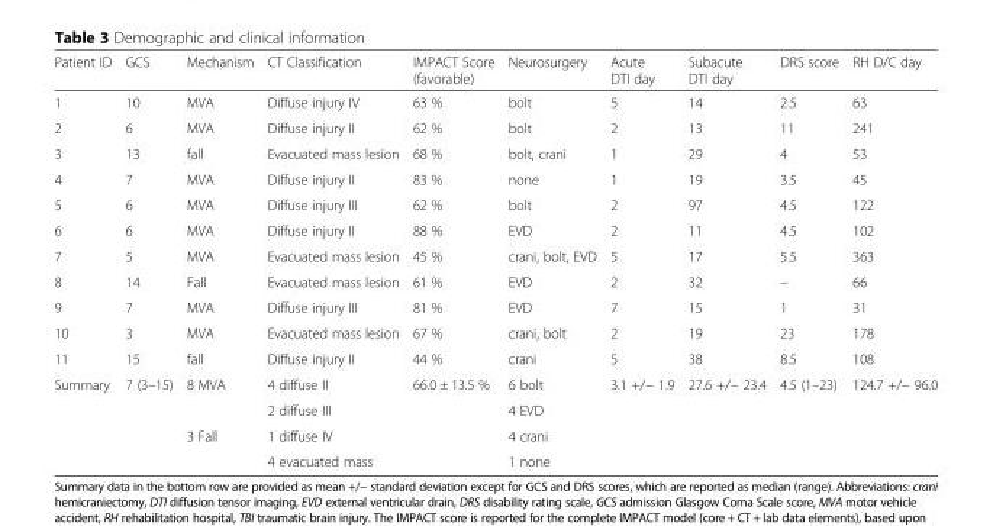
<table><thead><tr><td>Patient ID</td><td>GCS</td><td>Mechanism</td><td>CT Classification</td><td>IMPACT Score (favorable)</td><td>Neurosurgery</td><td>Acute DTI day</td><td>Subacute DTI day</td><td>DRS score</td><td>RH D/C day</td></tr></thead><tbody><tr><td>1</td><td>10</td><td>MVA</td><td>Diffuse injury IV</td><td>63 %</td><td>bolt</td><td>5</td><td>14</td><td>2.5</td><td>63</td></tr><tr><td>2</td><td>6</td><td>MVA</td><td>Diffuse injury II</td><td>62 %</td><td>bolt</td><td>2</td><td>13</td><td>11</td><td>241</td></tr><tr><td>3</td><td>13</td><td>fall</td><td>Evacuated mass lesion</td><td>68 %</td><td>bolt, crani</td><td>1</td><td>29</td><td>4</td><td>53</td></tr><tr><td>4</td><td>7</td><td>MVA</td><td>Diffuse injury II</td><td>83 %</td><td>none</td><td>1</td><td>19</td><td>3.5</td><td>45</td></tr><tr><td>5</td><td>6</td><td>MVA</td><td>Diffuse injury III</td><td>62 %</td><td>bolt</td><td>2</td><td>97</td><td>4.5</td><td>122</td></tr><tr><td>6</td><td>6</td><td>MVA</td><td>Diffuse injury II</td><td>88 %</td><td>EVD</td><td>2</td><td>11</td><td>4.5</td><td>102</td></tr><tr><td>7</td><td>5</td><td>MVA</td><td>Evacuated mass lesion</td><td>45 %</td><td>crani, bolt, EVD</td><td>5</td><td>17</td><td>5.5</td><td>363</td></tr><tr><td>8</td><td>14</td><td>Fall</td><td>Evacuated mass lesion</td><td>61 %</td><td>EVD</td><td>2</td><td>32</td><td>–</td><td>66</td></tr><tr><td>9</td><td>7</td><td>MVA</td><td>Diffuse injury III</td><td>81 %</td><td>EVD</td><td>7</td><td>15</td><td>1</td><td>31</td></tr><tr><td>10</td><td>3</td><td>MVA</td><td>Evacuated mass lesion</td><td>67 %</td><td>crani, bolt</td><td>2</td><td>19</td><td>23</td><td>178</td></tr><tr><td>11</td><td>15</td><td>fall</td><td>Diffuse injury II</td><td>44 %</td><td>crani</td><td>5</td><td>38</td><td>8.5</td><td>108</td></tr><tr><td rowspan="4">Summary</td><td rowspan="4">7 (3–15)</td><td rowspan="2">8 MVA</td><td>4 diffuse II</td><td rowspan="4">66.0 ± 13.5 %</td><td>6 bolt</td><td rowspan="4">3.1 +/− 1.9</td><td rowspan="4">27.6 +/− 23.4</td><td rowspan="4">4.5 (1–23)</td><td rowspan="4">124.7 +/− 96.0</td></tr><tr><td>2 diffuse III</td><td>4 EVD</td></tr><tr><td rowspan="2">3 Fall</td><td>1 diffuse IV</td><td>4 crani</td></tr><tr><td>4 evacuated mass</td><td>1 none</td></tr></tbody></table>